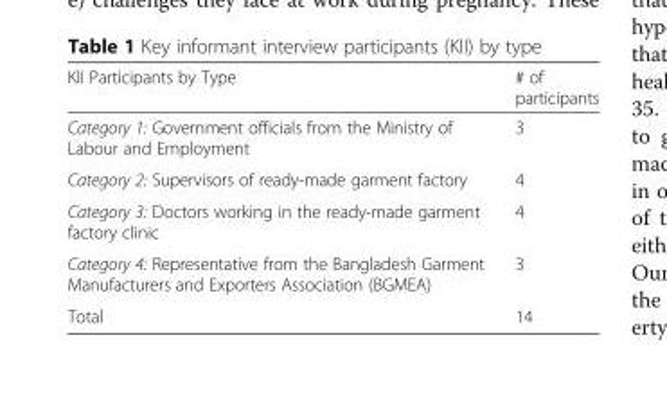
<table><thead><tr><td>KII Participants by Type</td><td># of participants</td></tr></thead><tbody><tr><td>Category 1: Government officials from the Ministry of Labour and Employment</td><td>3</td></tr><tr><td>Category 2: Supervisors of ready-made garment factory</td><td>4</td></tr><tr><td>Category 3: Doctors working in the ready-made garment factory clinic</td><td>4</td></tr><tr><td>Category 4: Representative from the Bangladesh Garment Manufacturers and Exporters Association (BGMEA)</td><td>3</td></tr><tr><td>Total</td><td>14</td></tr></tbody></table>